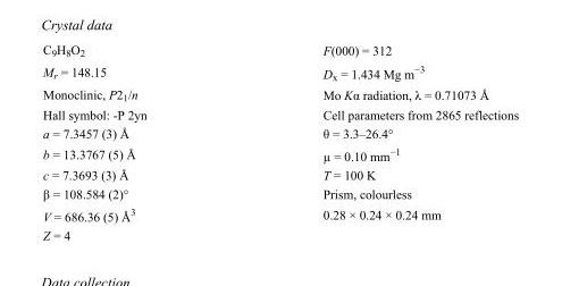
<table><tbody><tr><td>C<sub>9</sub>H<sub>8</sub>O<sub>2</sub></td><td>F(000) = 312</td></tr><tr><td>M<sub>r</sub> = 148.15</td><td>D<sub>x</sub> = 1.434 Mg m<sup>−3</sup></td></tr><tr><td>Monoclinic, P2<sub>1</sub>/n</td><td>Mo Kα radiation, λ = 0.71073 Å</td></tr><tr><td>Hall symbol: -P 2yn</td><td>Cell parameters from 2865 reflections</td></tr><tr><td>a = 7.3457 (3) Å</td><td>θ = 3.3–26.4°</td></tr><tr><td>b = 13.3767 (5) Å</td><td>µ = 0.10 mm<sup>−1</sup></td></tr><tr><td>c = 7.3693 (3) Å</td><td>T = 100 K</td></tr><tr><td>β = 108.584 (2)°</td><td>Prism, colourless</td></tr><tr><td>V = 686.36 (5) Å<sup>3</sup></td><td>0.28 × 0.24 × 0.24 mm</td></tr><tr><td>Z = 4</td><td></td></tr></tbody></table>